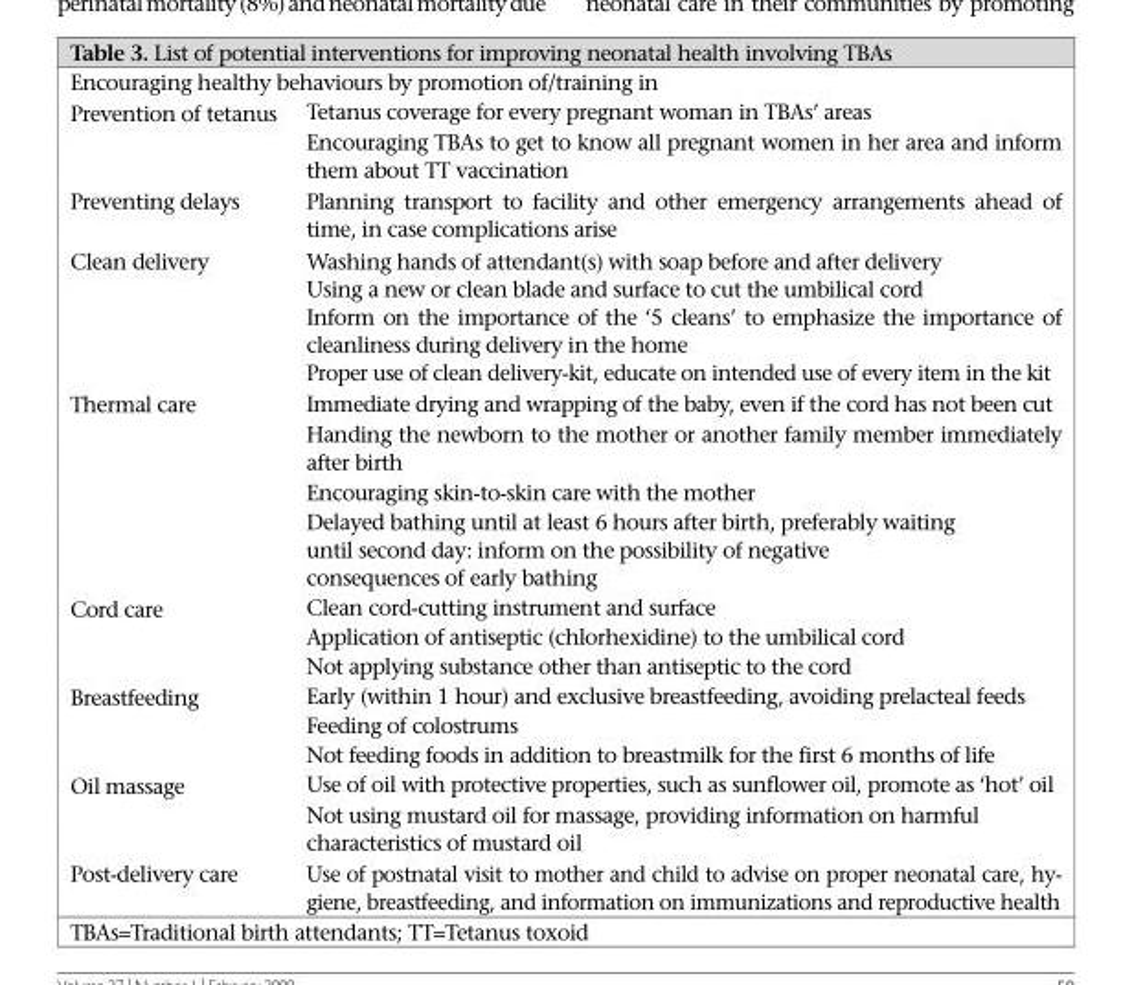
<table><tbody><tr><td colspan="2">Encouraging healthy behaviours by promotion of/training in</td></tr><tr><td rowspan="2">Prevention of tetanus</td><td>Tetanus coverage for every pregnant woman in TBAs’ areas</td></tr><tr><td>Encouraging TBAs to get to know all pregnant women in her area and inform them about TT vaccination</td></tr><tr><td>Preventing delays</td><td>Planning transport to facility and other emergency arrangements ahead of time, in case complications arise</td></tr><tr><td rowspan="4">Clean delivery</td><td>Washing hands of attendant(s) with soap before and after delivery</td></tr><tr><td>Using a new or clean blade and surface to cut the umbilical cord</td></tr><tr><td>Inform on the importance of the ‘5 cleans’ to emphasize the importance of cleanliness during delivery in the home</td></tr><tr><td>Proper use of clean delivery-kit, educate on intended use of every item in the kit</td></tr><tr><td rowspan="5">Thermal care</td><td>Immediate drying and wrapping of the baby, even if the cord has not been cut</td></tr><tr><td>Handing the newborn to the mother or another family member immediately after birth</td></tr><tr><td>Encouraging skin-to-skin care with the mother</td></tr><tr><td>Delayed bathing until at least 6 hours after birth, preferably waiting until second day: inform on the possibility of negative</td></tr><tr><td>consequences of early bathing</td></tr><tr><td rowspan="3">Cord care</td><td>Clean cord-cutting instrument and surface</td></tr><tr><td>Application of antiseptic (chlorhexidine) to the umbilical cord</td></tr><tr><td>Not applying substance other than antiseptic to the cord</td></tr><tr><td rowspan="3">Breastfeeding</td><td>Early (within 1 hour) and exclusive breastfeeding, avoiding prelacteal feeds</td></tr><tr><td>Feeding of colostrums</td></tr><tr><td>Not feeding foods in addition to breastmilk for the first 6 months of life</td></tr><tr><td rowspan="2">Oil massage</td><td>Use of oil with protective properties, such as sunflower oil, promote as ‘hot’ oil</td></tr><tr><td>Not using mustard oil for massage, providing information on harmful characteristics of mustard oil</td></tr><tr><td>Post-delivery care</td><td>Use of postnatal visit to mother and child to advise on proper neonatal care, hy- giene, breastfeeding, and information on immunizations and reproductive health</td></tr></tbody></table>